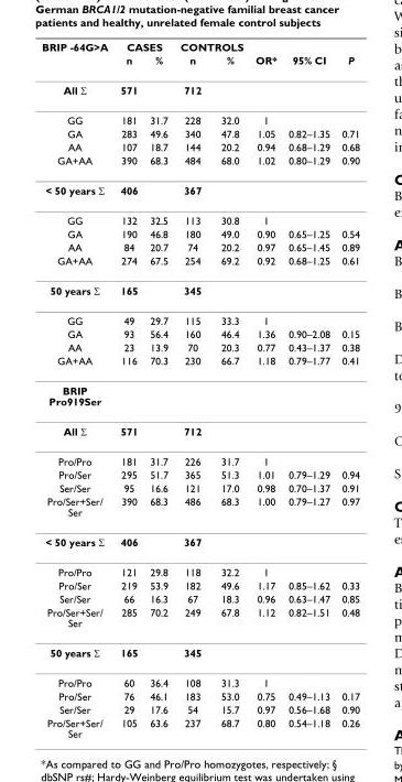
<table><thead><tr><td rowspan="2">BRIP -64G&gt;A</td><td colspan="2">CASES</td><td colspan="2">CONTROLS</td><td rowspan="2">OR*</td><td rowspan="2">95% CI</td><td rowspan="2">P</td></tr><tr><td>n</td><td>%</td><td>n</td><td>%</td></tr></thead><tbody><tr><td>All Σ</td><td>571</td><td></td><td>712</td><td></td><td></td><td></td><td></td></tr><tr><td>GG</td><td>181</td><td>31.7</td><td>228</td><td>32.0</td><td>1</td><td></td><td></td></tr><tr><td>GA</td><td>283</td><td>49.6</td><td>340</td><td>47.8</td><td>1.05</td><td>0.82–1.35</td><td>0.71</td></tr><tr><td>AA</td><td>107</td><td>18.7</td><td>144</td><td>20.2</td><td>0.94</td><td>0.68–1.29</td><td>0.68</td></tr><tr><td>GA+AA</td><td>390</td><td>68.3</td><td>484</td><td>68.0</td><td>1.02</td><td>0.80–1.29</td><td>0.90</td></tr><tr><td>&lt; 50 years Σ</td><td>406</td><td></td><td>367</td><td></td><td></td><td></td><td></td></tr><tr><td>GG</td><td>132</td><td>32.5</td><td>113</td><td>30.8</td><td>1</td><td></td><td></td></tr><tr><td>GA</td><td>190</td><td>46.8</td><td>180</td><td>49.0</td><td>0.90</td><td>0.65–1.25</td><td>0.54</td></tr><tr><td>AA</td><td>84</td><td>20.7</td><td>74</td><td>20.2</td><td>0.97</td><td>0.65–1.45</td><td>0.89</td></tr><tr><td>GA+AA</td><td>274</td><td>67.5</td><td>254</td><td>69.2</td><td>0.92</td><td>0.68–1.25</td><td>0.61</td></tr><tr><td>50 years Σ</td><td>165</td><td></td><td>345</td><td></td><td></td><td></td><td></td></tr><tr><td>GG</td><td>49</td><td>29.7</td><td>115</td><td>33.3</td><td>1</td><td></td><td></td></tr><tr><td>GA</td><td>93</td><td>56.4</td><td>160</td><td>46.4</td><td>1.36</td><td>0.90–2.08</td><td>0.15</td></tr><tr><td>AA</td><td>23</td><td>13.9</td><td>70</td><td>20.3</td><td>0.77</td><td>0.43–1.37</td><td>0.38</td></tr><tr><td>GA+AA</td><td>116</td><td>70.3</td><td>230</td><td>66.7</td><td>1.18</td><td>0.79–1.77</td><td>0.41</td></tr><tr><td colspan="8">BRIP Pro919Ser</td></tr><tr><td>All Σ</td><td>571</td><td></td><td>712</td><td></td><td></td><td></td><td></td></tr><tr><td>Pro/Pro</td><td>181</td><td>31.7</td><td>226</td><td>31.7</td><td>1</td><td></td><td></td></tr><tr><td>Pro/Ser</td><td>295</td><td>51.7</td><td>365</td><td>51.3</td><td>1.01</td><td>0.79–1.29</td><td>0.94</td></tr><tr><td>Ser/Ser</td><td>95</td><td>16.6</td><td>121</td><td>17.0</td><td>0.98</td><td>0.70–1.37</td><td>0.91</td></tr><tr><td>Pro/Ser+Ser/ Ser</td><td>390</td><td>68.3</td><td>486</td><td>68.3</td><td>1.00</td><td>0.79–1.27</td><td>0.97</td></tr><tr><td>&lt; 50 years Σ</td><td>406</td><td></td><td>367</td><td></td><td></td><td></td><td></td></tr><tr><td>Pro/Pro</td><td>121</td><td>29.8</td><td>118</td><td>32.2</td><td>1</td><td></td><td></td></tr><tr><td>Pro/Ser</td><td>219</td><td>53.9</td><td>182</td><td>49.6</td><td>1.17</td><td>0.85–1.62</td><td>0.33</td></tr><tr><td>Ser/Ser</td><td>66</td><td>16.3</td><td>67</td><td>18.3</td><td>0.96</td><td>0.63–1.47</td><td>0.85</td></tr><tr><td>Pro/Ser+Ser/ Ser</td><td>285</td><td>70.2</td><td>249</td><td>67.8</td><td>1.12</td><td>0.82–1.51</td><td>0.48</td></tr><tr><td>50 years Σ</td><td>165</td><td></td><td>345</td><td></td><td></td><td></td><td></td></tr><tr><td>Pro/Pro</td><td>60</td><td>36.4</td><td>108</td><td>31.3</td><td>1</td><td></td><td></td></tr><tr><td>Pro/Ser</td><td>76</td><td>46.1</td><td>183</td><td>53.0</td><td>0.75</td><td>0.49–1.13</td><td>0.17</td></tr><tr><td>Ser/Ser</td><td>29</td><td>17.6</td><td>54</td><td>15.7</td><td>0.97</td><td>0.56–1.68</td><td>0.90</td></tr><tr><td>Pro/Ser+Ser/ Ser</td><td>105</td><td>63.6</td><td>237</td><td>68.7</td><td>0.80</td><td>0.54–1.18</td><td>0.26</td></tr></tbody></table>